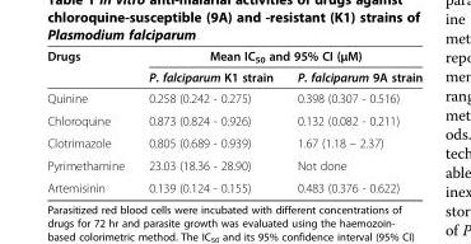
<table><thead><tr><td rowspan="2">Drugs</td><td colspan="2">Mean IC<sub>50</sub> and 95% CI (μM)</td></tr><tr><td>P. falciparum K1 strain</td><td>P. falciparum 9A strain</td></tr></thead><tbody><tr><td>Quinine</td><td>0.258 (0.242 - 0.275)</td><td>0.398 (0.307 - 0.516)</td></tr><tr><td>Chloroquine</td><td>0.873 (0.824 - 0.926)</td><td>0.132 (0.082 - 0.211)</td></tr><tr><td>Clotrimazole</td><td>0.805 (0.689 - 0.939)</td><td>1.67 (1.18 – 2.37)</td></tr><tr><td>Pyrimethamine</td><td>23.03 (18.36 - 28.90)</td><td>Not done</td></tr><tr><td>Artemisinin</td><td>0.139 (0.124 - 0.155)</td><td>0.483 (0.376 - 0.622)</td></tr></tbody></table>